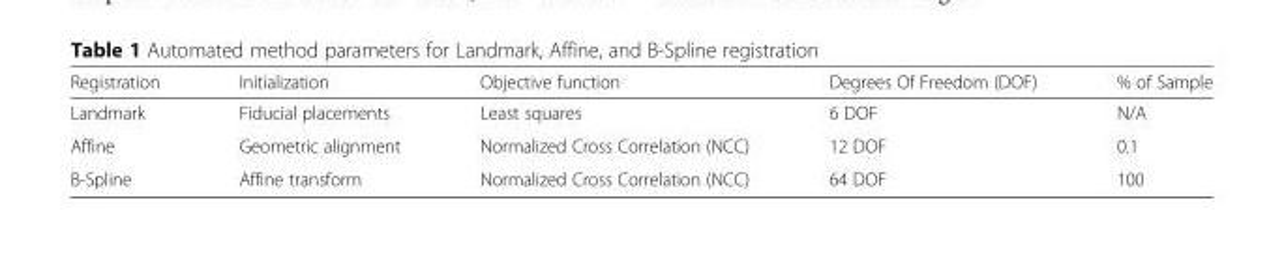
<table><thead><tr><td>Registration</td><td>Initialization</td><td>Objective function</td><td>Degrees Of Freedom (DOF)</td><td>% of Sample</td></tr></thead><tbody><tr><td>Landmark</td><td>Fiducial placements</td><td>Least squares</td><td>6 DOF</td><td>N/A</td></tr><tr><td>Affine</td><td>Geometric alignment</td><td>Normalized Cross Correlation (NCC)</td><td>12 DOF</td><td>0.1</td></tr><tr><td>B-Spline</td><td>Affine transform</td><td>Normalized Cross Correlation (NCC)</td><td>64 DOF</td><td>100</td></tr></tbody></table>